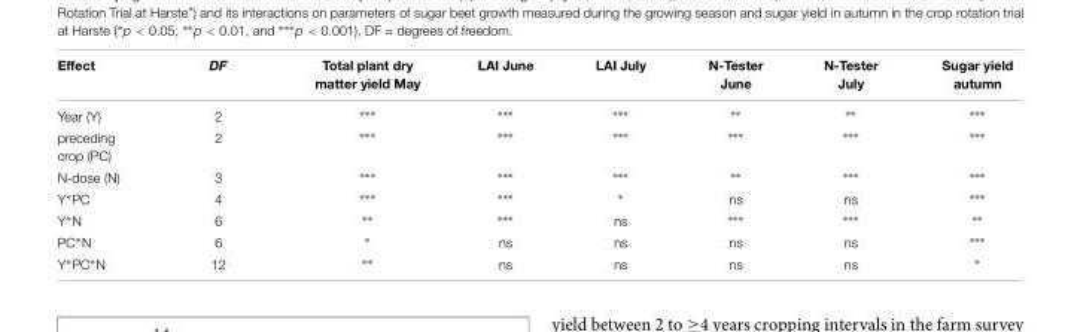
<table><thead><tr><td>Effect</td><td>DF</td><td>Total plant dry matter yield May</td><td>LAI June</td><td>LAI July</td><td>N-Tester June</td><td>N-Tester July</td><td>Sugar yield autumn</td></tr></thead><tbody><tr><td>Year (Y)</td><td>2</td><td>∗∗∗</td><td>∗∗∗</td><td>∗∗∗</td><td>∗∗</td><td>∗∗</td><td>∗∗∗</td></tr><tr><td>preceding crop (PC)</td><td>2</td><td>∗∗∗</td><td>∗∗∗</td><td>∗∗∗</td><td>∗∗∗</td><td>∗∗∗</td><td>∗∗∗</td></tr><tr><td>N-dose (N)</td><td>3</td><td>∗∗∗</td><td>∗∗∗</td><td>∗∗∗</td><td>∗∗</td><td>∗∗∗</td><td>∗∗∗</td></tr><tr><td>Y∗PC</td><td>4</td><td>∗∗∗</td><td>∗∗∗</td><td>∗</td><td>ns</td><td>ns</td><td>∗∗∗</td></tr><tr><td>Y∗N</td><td>6</td><td>∗∗</td><td>∗∗∗</td><td>ns</td><td>∗∗∗</td><td>∗∗∗</td><td>∗∗</td></tr><tr><td>PC∗N</td><td>6</td><td>∗</td><td>ns</td><td>ns</td><td>ns</td><td>ns</td><td>∗∗∗</td></tr><tr><td>Y∗PC∗N</td><td>12</td><td>∗∗</td><td>ns</td><td>ns</td><td>ns</td><td>ns</td><td>∗</td></tr></tbody></table>